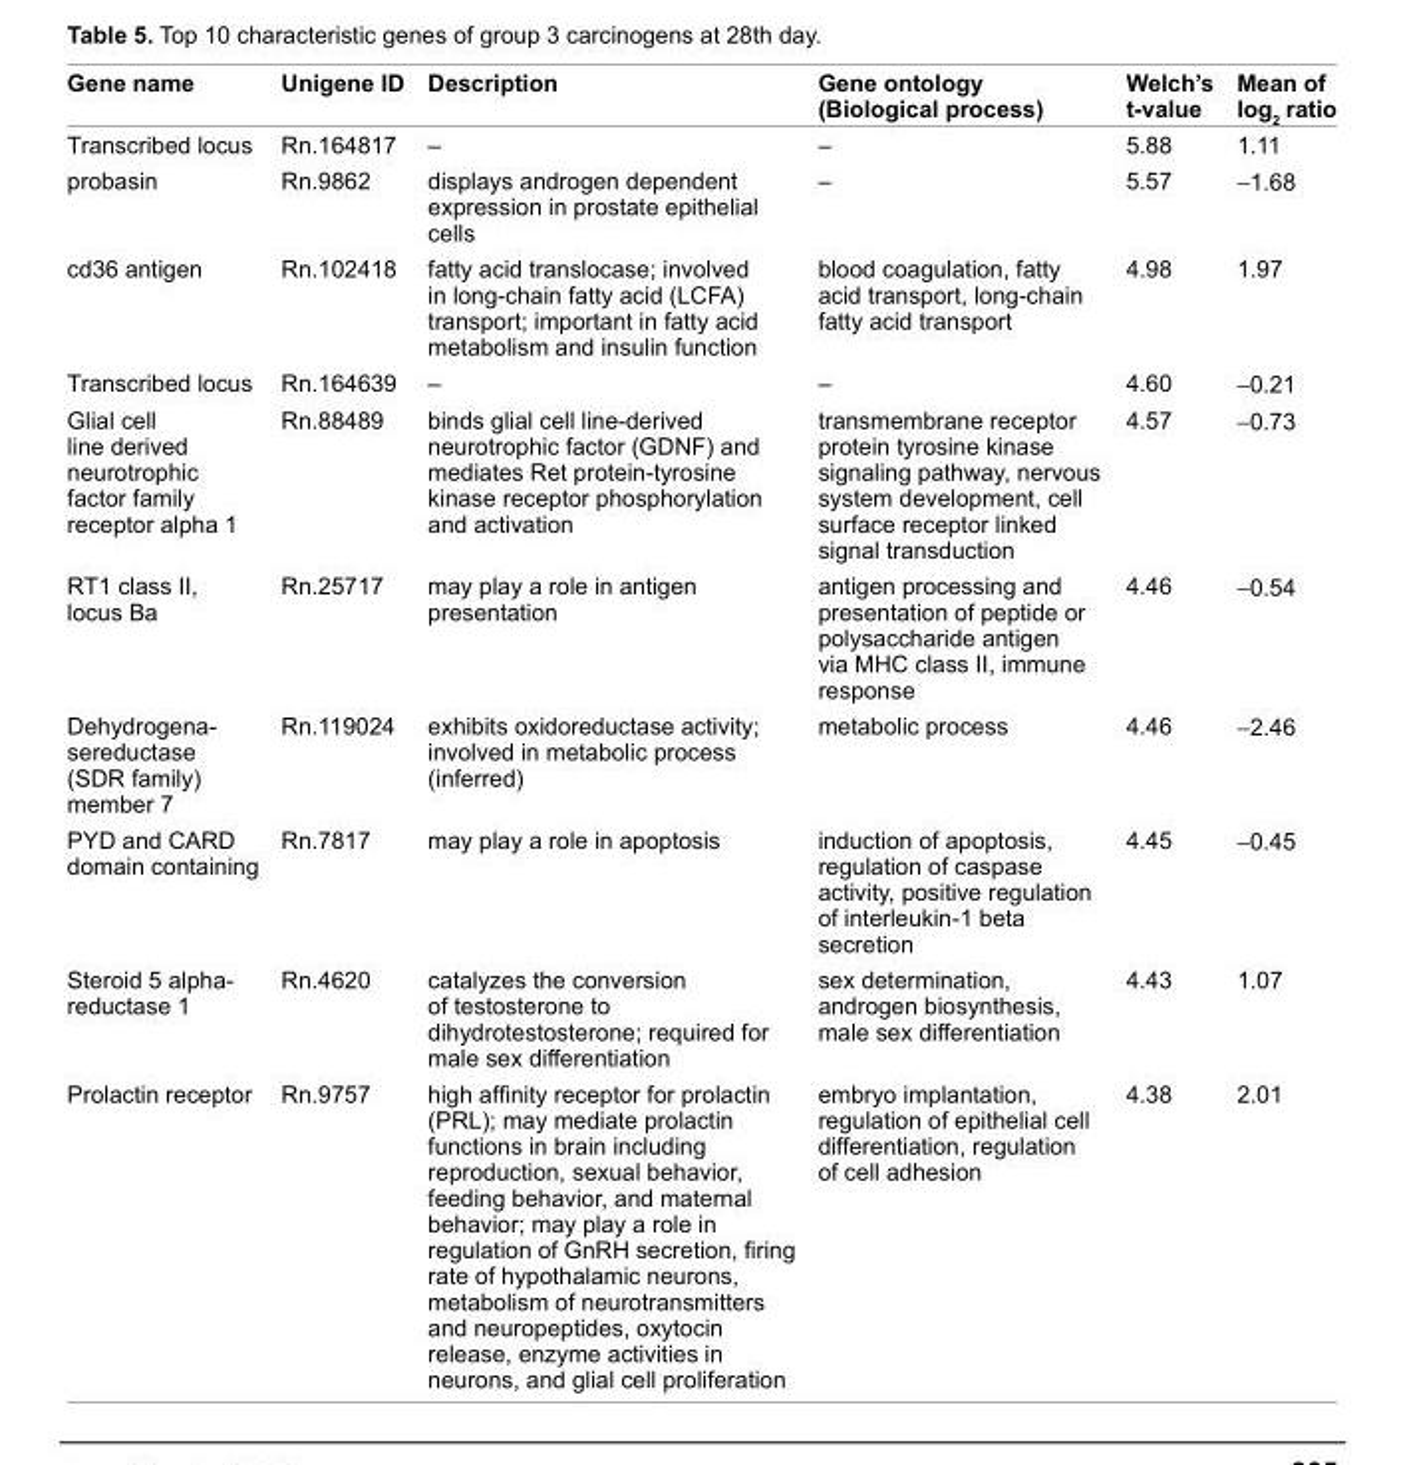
<table><thead><tr><td>Gene name</td><td>Unigene ID</td><td>Description</td><td>Gene ontology (Biological process)</td><td>Welch’s t-value</td><td>Mean of log<sub>2</sub> ratio</td></tr></thead><tbody><tr><td>Transcribed locus</td><td>rn.164817</td><td>–</td><td>–</td><td>5.88</td><td>1.11</td></tr><tr><td>probasin</td><td>rn.9862</td><td>displays androgen dependent expression in prostate epithelial cells</td><td>–</td><td>5.57</td><td>-1.68</td></tr><tr><td>cd36 antigen</td><td>rn.102418</td><td>fatty acid translocase; involved in long-chain fatty acid (LCFA) transport; important in fatty acid metabolism and insulin function</td><td>blood coagulation, fatty acid transport, long-chain fatty acid transport</td><td>4.98</td><td>1.97</td></tr><tr><td>Transcribed locus</td><td>rn.164639</td><td>–</td><td>–</td><td>4.60</td><td>-0.21</td></tr><tr><td>glial cell line derived neurotrophic factor family receptor alpha 1</td><td>rn.88489</td><td>binds glial cell line-derived neurotrophic factor (gDnF) and mediates ret protein-tyrosine kinase receptor phosphorylation and activation</td><td>transmembrane receptor protein tyrosine kinase signaling pathway, nervous system development, cell surface receptor linked signal transduction</td><td>4.57</td><td>-0.73</td></tr><tr><td>rT1 class II, locus Ba</td><td>rn.25717</td><td>may play a role in antigen presentation</td><td>antigen processing and presentation of peptide or polysaccharide antigen via MhC class II, immune response</td><td>4.46</td><td>-0.54</td></tr><tr><td>Dehydrogena- sereductase (sDr family) member 7</td><td>rn.119024</td><td>exhibits oxidoreductase activity; involved in metabolic process (inferred)</td><td>metabolic process</td><td>4.46</td><td>-2.46</td></tr><tr><td>PYD and CArD domain containing</td><td>rn.7817</td><td>may play a role in apoptosis</td><td>induction of apoptosis, regulation of caspase activity, positive regulation of interleukin-1 beta secretion</td><td>4.45</td><td>-0.45</td></tr><tr><td>steroid 5 alpha- reductase 1</td><td>rn.4620</td><td>catalyzes the conversion of testosterone to dihydrotestosterone; required for male sex differentiation</td><td>sex determination, androgen biosynthesis, male sex differentiation</td><td>4.43</td><td>1.07</td></tr><tr><td>Prolactin receptor</td><td>rn.9757</td><td>high affinity receptor for prolactin (PrL); may mediate prolactin functions in brain including reproduction, sexual behavior, feeding behavior, and maternal behavior; may play a role in regulation of GnRH secretion, firing rate of hypothalamic neurons, metabolism of neurotransmitters and neuropeptides, oxytocin release, enzyme activities in neurons, and glial cell proliferation</td><td>embryo implantation, regulation of epithelial cell differentiation, regulation of cell adhesion</td><td>4.38</td><td>2.01</td></tr></tbody></table>